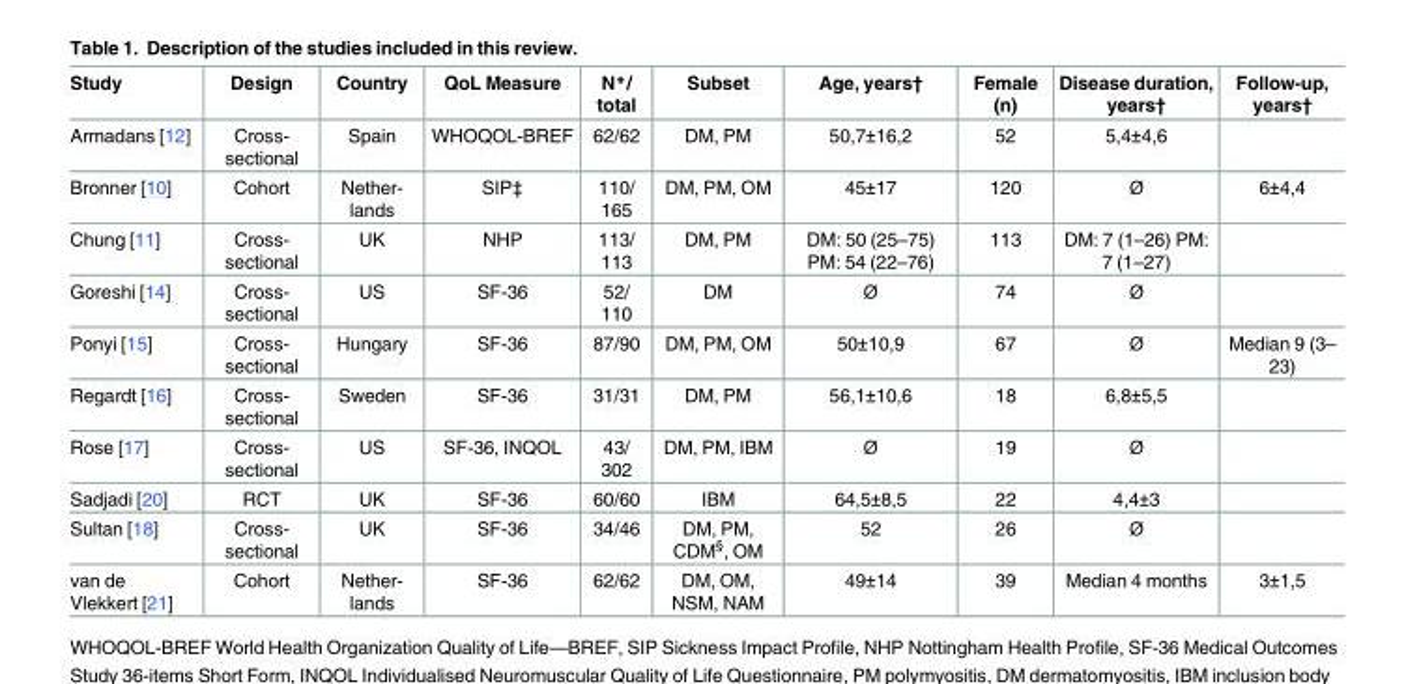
<table><thead><tr><td>Study</td><td>Design</td><td>Country</td><td>QoL Measure</td><td>N*/ total</td><td>Subset</td><td>Age, years†</td><td>Female (n)</td><td>Disease duration, years†</td><td>Follow-up, years†</td></tr></thead><tbody><tr><td>Armadans [12]</td><td>Cross- sectional</td><td>Spain</td><td>WHOQOL-BREF</td><td>62/62</td><td>DM, PM</td><td>50,7±16,2</td><td>52</td><td>5,4±4,6</td><td></td></tr><tr><td>Bronner [10]</td><td>Cohort</td><td>Nether- lands</td><td>SIP‡</td><td>110/ 165</td><td>DM, PM, OM</td><td>45±17</td><td>120</td><td>Ø</td><td>6±4,4</td></tr><tr><td>Chung [11]</td><td>Cross- sectional</td><td>UK</td><td>NHP</td><td>113/ 113</td><td>DM, PM</td><td>DM: 50 (25–75) PM: 54 (22–76)</td><td>113</td><td>DM: 7 (1–26) PM: 7 (1–27)</td><td></td></tr><tr><td>Goreshi [14]</td><td>Cross- sectional</td><td>US</td><td>SF-36</td><td>52/ 110</td><td>DM</td><td>Ø</td><td>74</td><td>Ø</td><td></td></tr><tr><td>Ponyi [15]</td><td>Cross- sectional</td><td>Hungary</td><td>SF-36</td><td>87/90</td><td>DM, PM, OM</td><td>50±10,9</td><td>67</td><td>Ø</td><td>Median 9 (3– 23)</td></tr><tr><td>Regardt [16]</td><td>Cross- sectional</td><td>Sweden</td><td>SF-36</td><td>31/31</td><td>DM, PM</td><td>56,1±10,6</td><td>18</td><td>6,8±5,5</td><td></td></tr><tr><td>Rose [17]</td><td>Cross- sectional</td><td>US</td><td>SF-36, INQOL</td><td>43/ 302</td><td>DM, PM, IBM</td><td>Ø</td><td>19</td><td>Ø</td><td></td></tr><tr><td>Sadjadi [20]</td><td>RCT</td><td>UK</td><td>SF-36</td><td>60/60</td><td>IBM</td><td>64,5±8,5</td><td>22</td><td>4,4±3</td><td></td></tr><tr><td>Sultan [18]</td><td>Cross- sectional</td><td>UK</td><td>SF-36</td><td>34/46</td><td>DM, PM, CDM<sup>§</sup>, OM</td><td>52</td><td>26</td><td>Ø</td><td></td></tr><tr><td>van de Vlekkert [21]</td><td>Cohort</td><td>Nether- lands</td><td>SF-36</td><td>62/62</td><td>DM, OM, NSM, NAM</td><td>49±14</td><td>39</td><td>Median 4 months</td><td>3±1,5</td></tr></tbody></table>